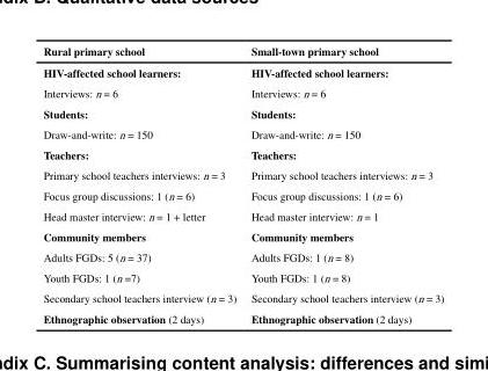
<table><thead><tr><td>Rural primary school</td><td>Small-town primary school</td></tr></thead><tbody><tr><td>HIV-affected school learners:</td><td>HIV-affected school learners:</td></tr><tr><td>Interviews: n = 6</td><td>Interviews: n = 6</td></tr><tr><td>Students:</td><td>Students:</td></tr><tr><td>Draw-and-write: n = 150</td><td>Draw-and-write: n = 150</td></tr><tr><td>Teachers:</td><td>Teachers:</td></tr><tr><td>Primary school teachers interviews: n = 3</td><td>Primary school teachers interviews: n = 3</td></tr><tr><td>Focus group discussions: 1 (n = 6)</td><td>Focus group discussions: 1 (n = 6)</td></tr><tr><td>Head master interview: n = 1 + letter</td><td>Head master interview: n = 1</td></tr><tr><td>Community members</td><td>Community members</td></tr><tr><td>Adults FGDs: 5 (n = 37)</td><td>Adults FGDs: 1 (n = 8)</td></tr><tr><td>Youth FGDs: 1 (n =7)</td><td>Youth FGDs: 1 (n = 8)</td></tr><tr><td>Secondary school teachers interview (n = 3)</td><td>Secondary school teachers interview (n = 3)</td></tr><tr><td>Ethnographic observation (2 days)</td><td>Ethnographic observation (2 days)</td></tr></tbody></table>